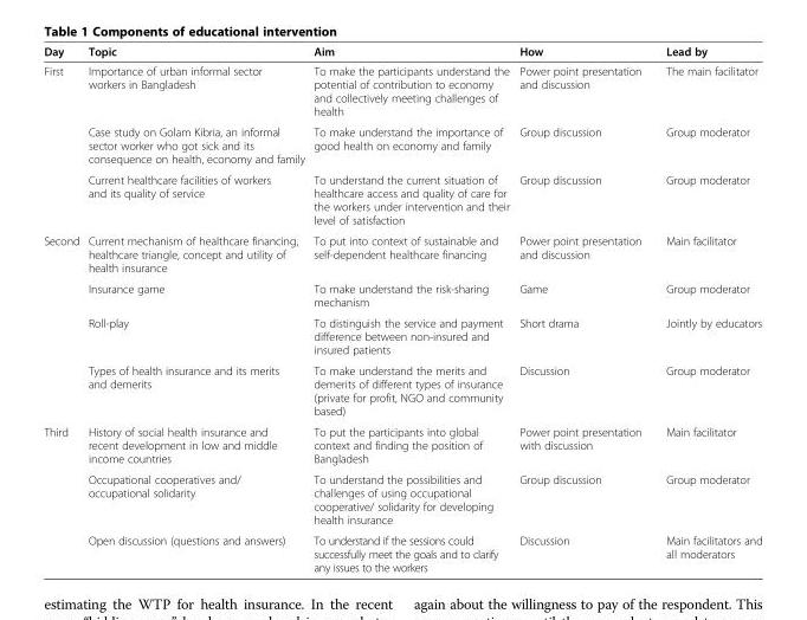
<table><thead><tr><td>Day</td><td>Topic</td><td>Aim</td><td>How</td><td>Lead by</td></tr></thead><tbody><tr><td rowspan="3">First</td><td>Importance of urban informal sector workers in Bangladesh</td><td>To make the participants understand the potential of contribution to economy and collectively meeting challenges of health</td><td>Power point presentation and discussion</td><td>The main facilitator</td></tr><tr><td>Case study on Golam Kibria, an informal sector worker who got sick and its consequence on health, economy and family</td><td>To make understand the importance of good health on economy and family</td><td>Group discussion</td><td>Group moderator</td></tr><tr><td>Current healthcare facilities of workers and its quality of service</td><td>To understand the current situation of healthcare access and quality of care for the workers under intervention and their level of satisfaction</td><td>Group discussion</td><td>Group moderator</td></tr><tr><td rowspan="4">Second</td><td>Current mechanism of healthcare financing, healthcare triangle, concept and utility of health insurance</td><td>To put into context of sustainable and self-dependent healthcare financing</td><td>Power point presentation and discussion</td><td>Main facilitator</td></tr><tr><td>Insurance game</td><td>To make understand the risk-sharing mechanism</td><td>Game</td><td>Group moderator</td></tr><tr><td>Roll-play</td><td>To distinguish the service and payment difference between non-insured and insured patients</td><td>Short drama</td><td>Jointly by educators</td></tr><tr><td>Types of health insurance and its merits and demerits</td><td>To make understand the merits and demerits of different types of insurance (private for profit, NGO and community based)</td><td>Discussion</td><td>Group moderator</td></tr><tr><td rowspan="3">Third</td><td>History of social health insurance and recent development in low and middle income countries</td><td>To put the participants into global context and finding the position of Bangladesh</td><td>Power point presentation with discussion</td><td>Main facilitator</td></tr><tr><td>Occupational cooperatives and/ occupational solidarity</td><td>To understand the possibilities and challenges of using occupational cooperative/ solidarity for developing health insurance</td><td>Group discussion</td><td>Group moderator</td></tr><tr><td>Open discussion (questions and answers)</td><td>To understand if the sessions could successfully meet the goals and to clarify any issues to the workers</td><td>Discussion</td><td>Main facilitators and all moderators</td></tr></tbody></table>